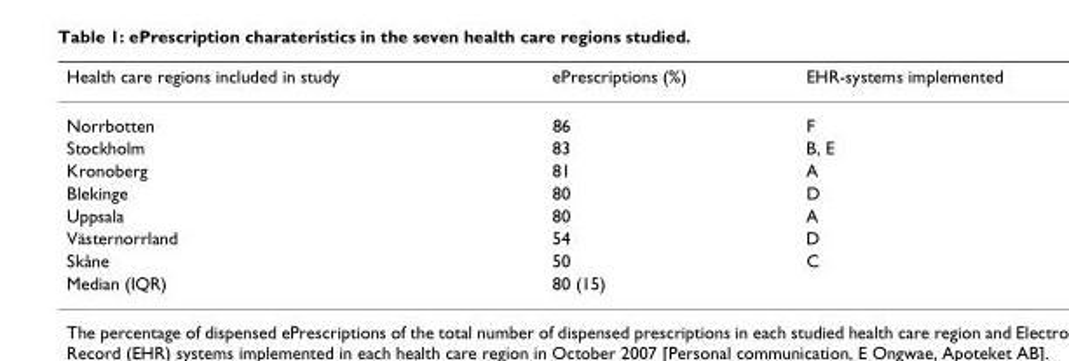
<table><thead><tr><td>Health care regions included in study</td><td>ePrescriptions (%)</td><td>EHR-systems implemented</td></tr></thead><tbody><tr><td>Norrbotten</td><td>86</td><td>F</td></tr><tr><td>Stockholm</td><td>83</td><td>B, E</td></tr><tr><td>Kronoberg</td><td>81</td><td>A</td></tr><tr><td>Blekinge</td><td>80</td><td>D</td></tr><tr><td>Uppsala</td><td>80</td><td>A</td></tr><tr><td>Västernorrland</td><td>54</td><td>D</td></tr><tr><td>Skåne</td><td>50</td><td>C</td></tr><tr><td>Median (IQR)</td><td>80 (15)</td><td></td></tr></tbody></table>